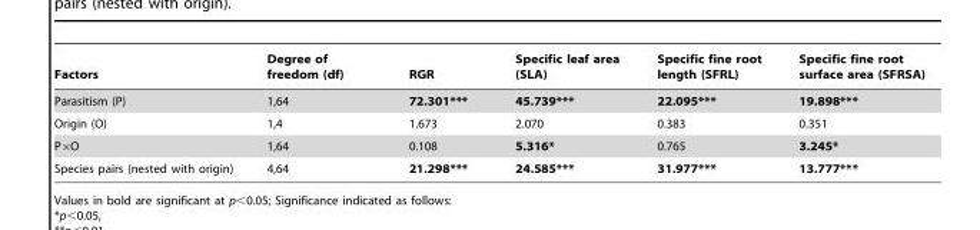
<table><thead><tr><td>Factors</td><td>Degree of freedom (df)</td><td>RGR</td><td>Specific leaf area (SLA)</td><td>Specific fine root length (SFRL)</td><td>Specific fine root surface area (SFRSA)</td></tr></thead><tbody><tr><td>Parasitism (P)</td><td>1,64</td><td>72.301***</td><td>45.739***</td><td>22.095***</td><td>19.898***</td></tr><tr><td>Origin (O)</td><td>1,4</td><td>1.673</td><td>2.070</td><td>0.383</td><td>0.351</td></tr><tr><td>P×O</td><td>1,64</td><td>0.108</td><td>5.316*</td><td>0.765</td><td>3.245*</td></tr><tr><td>Species pairs (nested with origin)</td><td>4,64</td><td>21.298***</td><td>24.585***</td><td>31.977***</td><td>13.777***</td></tr></tbody></table>